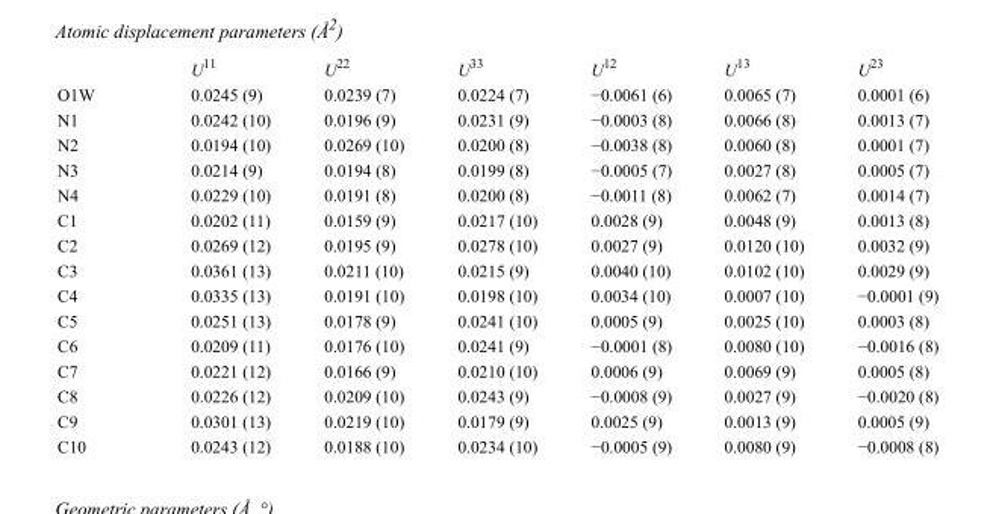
<table><thead><tr><td></td><td>U<sup>11</sup></td><td>U<sup>22</sup></td><td>U<sup>33</sup></td><td>U<sup>12</sup></td><td>U<sup>13</sup></td><td>U<sup>23</sup></td></tr></thead><tbody><tr><td>O1W</td><td>0.0245 (9)</td><td>0.0239 (7)</td><td>0.0224 (7)</td><td>−0.0061 (6)</td><td>0.0065 (7)</td><td>0.0001 (6)</td></tr><tr><td>N1</td><td>0.0242 (10)</td><td>0.0196 (9)</td><td>0.0231 (9)</td><td>−0.0003 (8)</td><td>0.0066 (8)</td><td>0.0013 (7)</td></tr><tr><td>N2</td><td>0.0194 (10)</td><td>0.0269 (10)</td><td>0.0200 (8)</td><td>−0.0038 (8)</td><td>0.0060 (8)</td><td>0.0001 (7)</td></tr><tr><td>N3</td><td>0.0214 (9)</td><td>0.0194 (8)</td><td>0.0199 (8)</td><td>−0.0005 (7)</td><td>0.0027 (8)</td><td>0.0005 (7)</td></tr><tr><td>N4</td><td>0.0229 (10)</td><td>0.0191 (8)</td><td>0.0200 (8)</td><td>−0.0011 (8)</td><td>0.0062 (7)</td><td>0.0014 (7)</td></tr><tr><td>C1</td><td>0.0202 (11)</td><td>0.0159 (9)</td><td>0.0217 (10)</td><td>0.0028 (9)</td><td>0.0048 (9)</td><td>0.0013 (8)</td></tr><tr><td>C2</td><td>0.0269 (12)</td><td>0.0195 (9)</td><td>0.0278 (10)</td><td>0.0027 (9)</td><td>0.0120 (10)</td><td>0.0032 (9)</td></tr><tr><td>C3</td><td>0.0361 (13)</td><td>0.0211 (10)</td><td>0.0215 (9)</td><td>0.0040 (10)</td><td>0.0102 (10)</td><td>0.0029 (9)</td></tr><tr><td>C4</td><td>0.0335 (13)</td><td>0.0191 (10)</td><td>0.0198 (10)</td><td>0.0034 (10)</td><td>0.0007 (10)</td><td>−0.0001 (9)</td></tr><tr><td>C5</td><td>0.0251 (13)</td><td>0.0178 (9)</td><td>0.0241 (10)</td><td>0.0005 (9)</td><td>0.0025 (10)</td><td>0.0003 (8)</td></tr><tr><td>C6</td><td>0.0209 (11)</td><td>0.0176 (10)</td><td>0.0241 (9)</td><td>−0.0001 (8)</td><td>0.0080 (10)</td><td>−0.0016 (8)</td></tr><tr><td>C7</td><td>0.0221 (12)</td><td>0.0166 (9)</td><td>0.0210 (10)</td><td>0.0006 (9)</td><td>0.0069 (9)</td><td>0.0005 (8)</td></tr><tr><td>C8</td><td>0.0226 (12)</td><td>0.0209 (10)</td><td>0.0243 (9)</td><td>−0.0008 (9)</td><td>0.0027 (9)</td><td>−0.0020 (8)</td></tr><tr><td>C9</td><td>0.0301 (13)</td><td>0.0219 (10)</td><td>0.0179 (9)</td><td>0.0025 (9)</td><td>0.0013 (9)</td><td>0.0005 (9)</td></tr><tr><td>C10</td><td>0.0243 (12)</td><td>0.0188 (10)</td><td>0.0234 (10)</td><td>−0.0005 (9)</td><td>0.0080 (9)</td><td>−0.0008 (8)</td></tr></tbody></table>